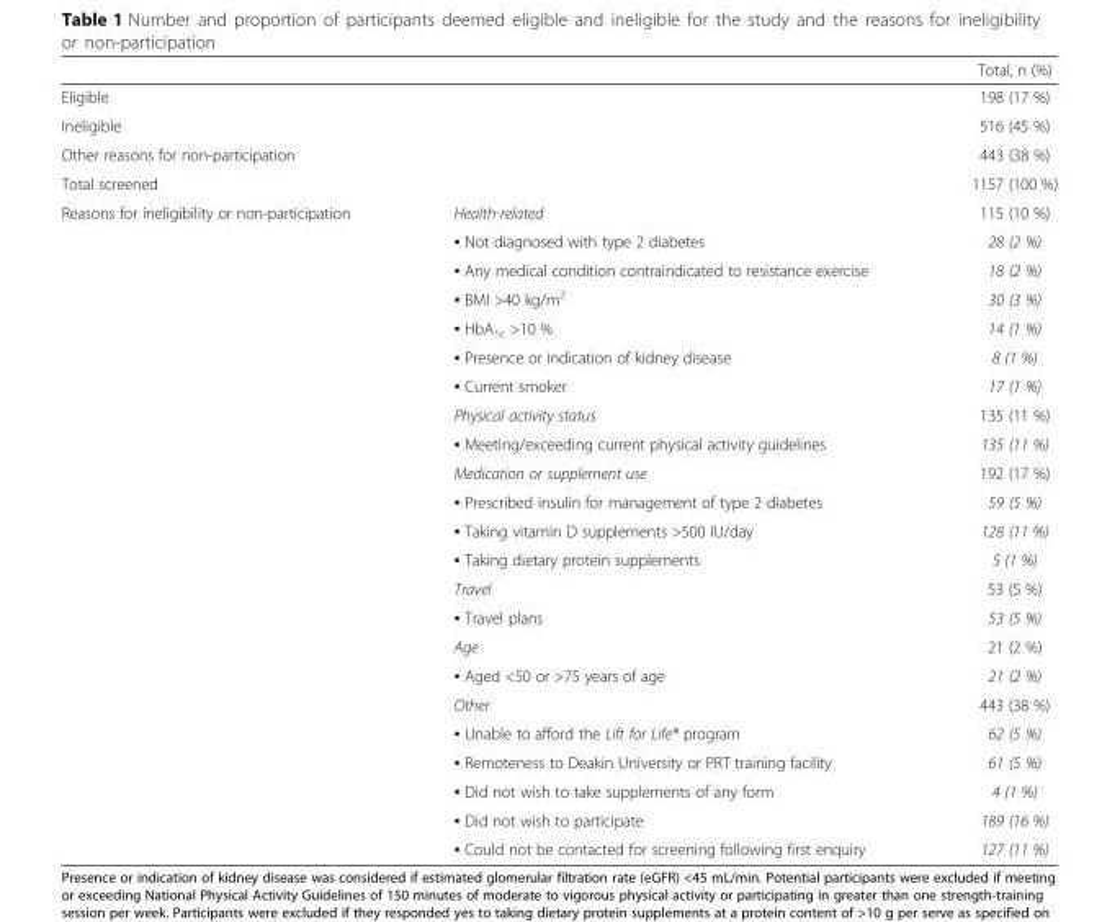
<table><thead><tr><td></td><td></td><td>Total, n (%)</td></tr></thead><tbody><tr><td colspan="2">Eligible</td><td>198 (17 %)</td></tr><tr><td colspan="2">Ineligible</td><td>516 (45 %)</td></tr><tr><td colspan="2">Other reasons for non-participation</td><td>443 (38 %)</td></tr><tr><td colspan="2">Total screened</td><td>1157 (100 %)</td></tr><tr><td rowspan="23">Reasons for ineligibility or non-participation</td><td>Health-related</td><td>115 (10 %)</td></tr><tr><td>▪ Not diagnosed with type 2 diabetes</td><td>28 (2 %)</td></tr><tr><td>▪ Any medical condition contraindicated to resistance exercise</td><td>18 (2 %)</td></tr><tr><td>▪ BMI &gt;40 kg/m<sup>2</sup></td><td>30 (3 %)</td></tr><tr><td>▪ HbA<sub>1c</sub> &gt;10 %</td><td>14 (1 %)</td></tr><tr><td>▪ Presence or indication of kidney disease</td><td>8 (1 %)</td></tr><tr><td>▪ Current smoker</td><td>17 (1 %)</td></tr><tr><td>Physical activity status</td><td>135 (11 %)</td></tr><tr><td>▪ Meeting/exceeding current physical activity guidelines</td><td>135 (11 %)</td></tr><tr><td>Medication or supplement use</td><td>192 (17 %)</td></tr><tr><td>▪ Prescribed insulin for management of type 2 diabetes</td><td>59 (5 %)</td></tr><tr><td>▪ Taking vitamin D supplements &gt;500 IU/day</td><td>128 (11 %)</td></tr><tr><td>▪ Taking dietary protein supplements</td><td>5 (1 %)</td></tr><tr><td>Travel</td><td>53 (5 %)</td></tr><tr><td>▪ Travel plans</td><td>53 (5 %)</td></tr><tr><td>Age</td><td>21 (2 %)</td></tr><tr><td>▪ Aged &lt;50 or &gt;75 years of age</td><td>21 (2 %)</td></tr><tr><td>Other</td><td>443 (38 %)</td></tr><tr><td>▪ Unable to afford the Lift for Life® program</td><td>62 (5 %)</td></tr><tr><td>▪ Remoteness to Deakin University or PRT training facility</td><td>61 (5 %)</td></tr><tr><td>▪ Did not wish to take supplements of any form</td><td>4 (1 %)</td></tr><tr><td>▪ Did not wish to participate</td><td>189 (16 %)</td></tr><tr><td>▪ Could not be contacted for screening following first enquiry</td><td>127 (11 %)</td></tr></tbody></table>